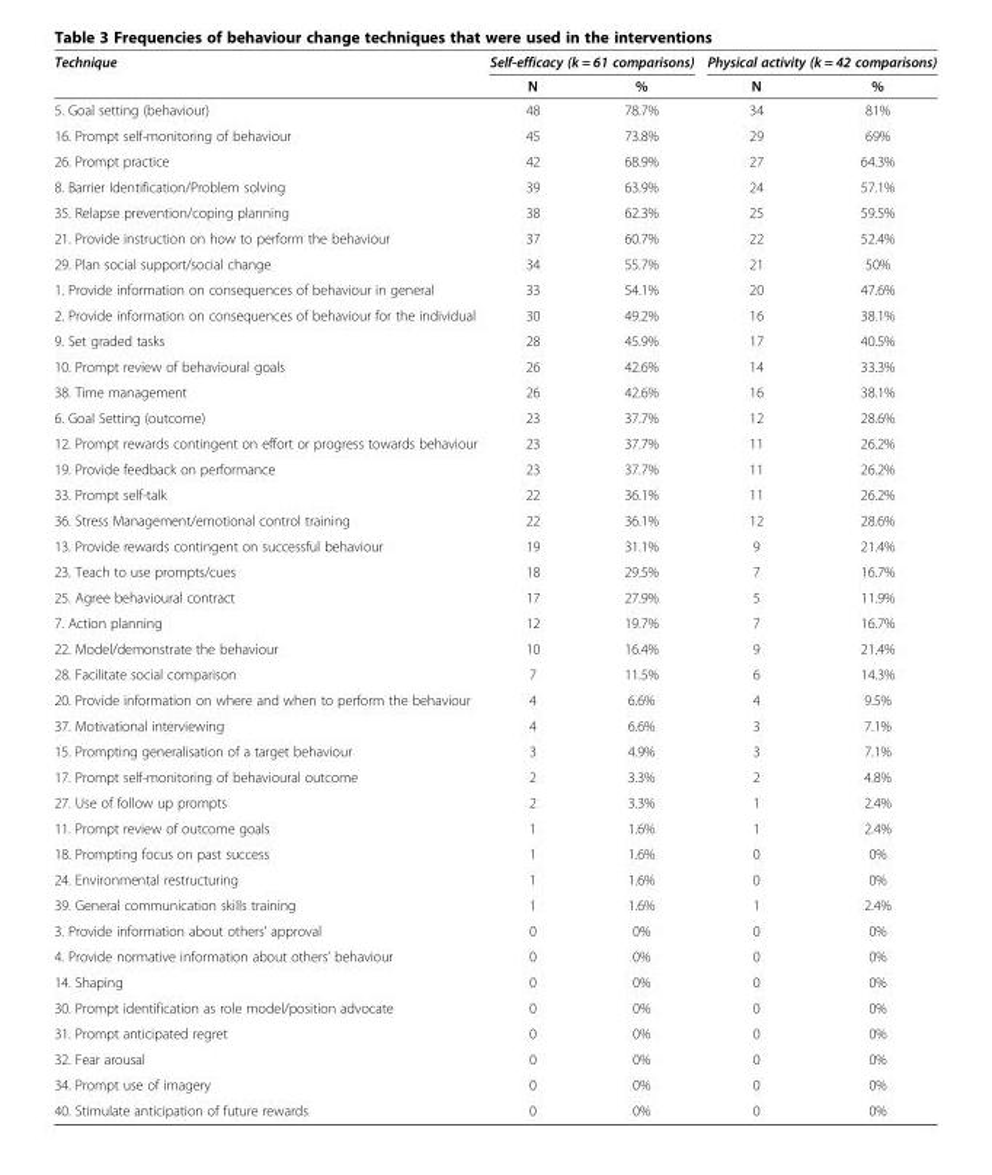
<table><thead><tr><td rowspan="2">Technique</td><td colspan="2">Self-efficacy (k = 61 comparisons)</td><td colspan="2">Physical activity (k = 42 comparisons)</td></tr><tr><td>N</td><td>%</td><td>N</td><td>%</td></tr></thead><tbody><tr><td>5. Goal setting (behaviour)</td><td>48</td><td>78.7%</td><td>34</td><td>81%</td></tr><tr><td>16. Prompt self-monitoring of behaviour</td><td>45</td><td>73.8%</td><td>29</td><td>69%</td></tr><tr><td>26. Prompt practice</td><td>42</td><td>68.9%</td><td>27</td><td>64.3%</td></tr><tr><td>8. Barrier Identification/Problem solving</td><td>39</td><td>63.9%</td><td>24</td><td>57.1%</td></tr><tr><td>35. Relapse prevention/coping planning</td><td>38</td><td>62.3%</td><td>25</td><td>59.5%</td></tr><tr><td>21. Provide instruction on how to perform the behaviour</td><td>37</td><td>60.7%</td><td>22</td><td>52.4%</td></tr><tr><td>29. Plan social support/social change</td><td>34</td><td>55.7%</td><td>21</td><td>50%</td></tr><tr><td>1. Provide information on consequences of behaviour in general</td><td>33</td><td>54.1%</td><td>20</td><td>47.6%</td></tr><tr><td>2. Provide information on consequences of behaviour for the individual</td><td>30</td><td>49.2%</td><td>16</td><td>38.1%</td></tr><tr><td>9. Set graded tasks</td><td>28</td><td>45.9%</td><td>17</td><td>40.5%</td></tr><tr><td>10. Prompt review of behavioural goals</td><td>26</td><td>42.6%</td><td>14</td><td>33.3%</td></tr><tr><td>38. Time management</td><td>26</td><td>42.6%</td><td>16</td><td>38.1%</td></tr><tr><td>6. Goal Setting (outcome)</td><td>23</td><td>37.7%</td><td>12</td><td>28.6%</td></tr><tr><td>12. Prompt rewards contingent on effort or progress towards behaviour</td><td>23</td><td>37.7%</td><td>11</td><td>26.2%</td></tr><tr><td>19. Provide feedback on performance</td><td>23</td><td>37.7%</td><td>11</td><td>26.2%</td></tr><tr><td>33. Prompt self-talk</td><td>22</td><td>36.1%</td><td>11</td><td>26.2%</td></tr><tr><td>36. Stress Management/emotional control training</td><td>22</td><td>36.1%</td><td>12</td><td>28.6%</td></tr><tr><td>13. Provide rewards contingent on successful behaviour</td><td>19</td><td>31.1%</td><td>9</td><td>21.4%</td></tr><tr><td>23. Teach to use prompts/cues</td><td>18</td><td>29.5%</td><td>7</td><td>16.7%</td></tr><tr><td>25. Agree behavioural contract</td><td>17</td><td>27.9%</td><td>5</td><td>11.9%</td></tr><tr><td>7. Action planning</td><td>12</td><td>19.7%</td><td>7</td><td>16.7%</td></tr><tr><td>22. Model/demonstrate the behaviour</td><td>10</td><td>16.4%</td><td>9</td><td>21.4%</td></tr><tr><td>28. Facilitate social comparison</td><td>7</td><td>11.5%</td><td>6</td><td>14.3%</td></tr><tr><td>20. Provide information on where and when to perform the behaviour</td><td>4</td><td>6.6%</td><td>4</td><td>9.5%</td></tr><tr><td>37. Motivational interviewing</td><td>4</td><td>6.6%</td><td>3</td><td>7.1%</td></tr><tr><td>15. Prompting generalisation of a target behaviour</td><td>3</td><td>4.9%</td><td>3</td><td>7.1%</td></tr><tr><td>17. Prompt self-monitoring of behavioural outcome</td><td>2</td><td>3.3%</td><td>2</td><td>4.8%</td></tr><tr><td>27. Use of follow up prompts</td><td>2</td><td>3.3%</td><td>1</td><td>2.4%</td></tr><tr><td>11. Prompt review of outcome goals</td><td>1</td><td>1.6%</td><td>1</td><td>2.4%</td></tr><tr><td>18. Prompting focus on past success</td><td>1</td><td>1.6%</td><td>0</td><td>0%</td></tr><tr><td>24. Environmental restructuring</td><td>1</td><td>1.6%</td><td>0</td><td>0%</td></tr><tr><td>39. General communication skills training</td><td>1</td><td>1.6%</td><td>1</td><td>2.4%</td></tr><tr><td>3. Provide information about others’ approval</td><td>0</td><td>0%</td><td>0</td><td>0%</td></tr><tr><td>4. Provide normative information about others’ behaviour</td><td>0</td><td>0%</td><td>0</td><td>0%</td></tr><tr><td>14. Shaping</td><td>0</td><td>0%</td><td>0</td><td>0%</td></tr><tr><td>30. Prompt identification as role model/position advocate</td><td>0</td><td>0%</td><td>0</td><td>0%</td></tr><tr><td>31. Prompt anticipated regret</td><td>0</td><td>0%</td><td>0</td><td>0%</td></tr><tr><td>32. Fear arousal</td><td>0</td><td>0%</td><td>0</td><td>0%</td></tr><tr><td>34. Prompt use of imagery</td><td>0</td><td>0%</td><td>0</td><td>0%</td></tr><tr><td>40. Stimulate anticipation of future rewards</td><td>0</td><td>0%</td><td>0</td><td>0%</td></tr></tbody></table>